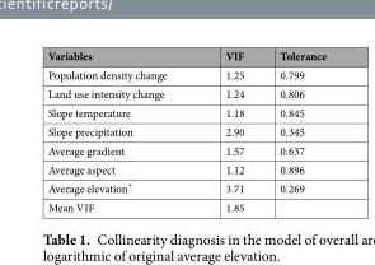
<table><thead><tr><td>Variables</td><td>VIF</td><td>Tolerance</td></tr></thead><tbody><tr><td>Population density change</td><td>1.25</td><td>0.799</td></tr><tr><td>Land use intensity change</td><td>1.24</td><td>0.806</td></tr><tr><td>Slope temperature</td><td>1.18</td><td>0.845</td></tr><tr><td>Slope precipitation</td><td>2.90</td><td>0.345</td></tr><tr><td>Average gradient</td><td>1.57</td><td>0.637</td></tr><tr><td>Average aspect</td><td>1.12</td><td>0.896</td></tr><tr><td>Average elevation*</td><td>3.71</td><td>0.269</td></tr><tr><td>Mean VIF</td><td>1.85</td><td></td></tr></tbody></table>